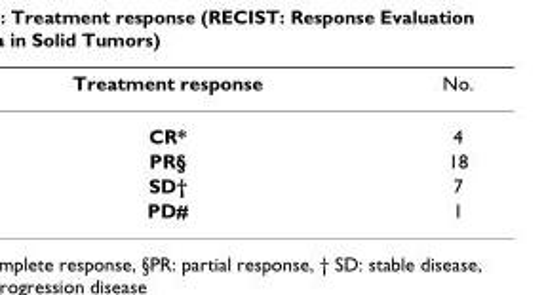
<table><thead><tr><td>Treatment response</td><td>No.</td></tr></thead><tbody><tr><td>CR*</td><td>4</td></tr><tr><td>PR§</td><td>18</td></tr><tr><td>SD†</td><td>7</td></tr><tr><td>PD#</td><td>1</td></tr></tbody></table>